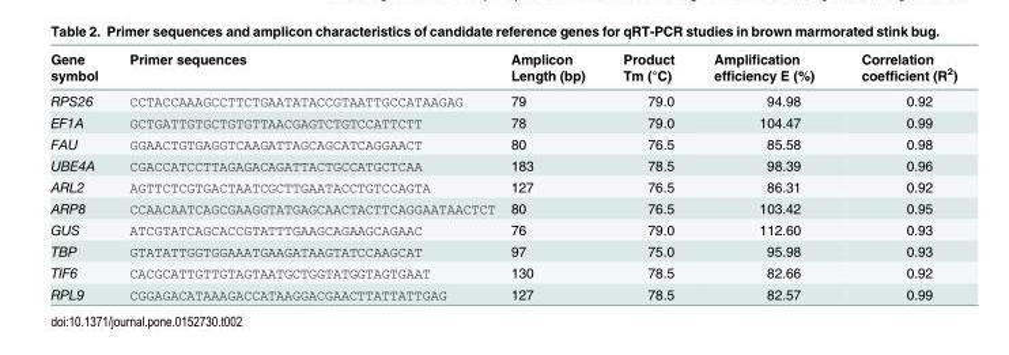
<table><thead><tr><td>Gene symbol</td><td>Primer sequences</td><td>Amplicon Length (bp)</td><td>Product Tm (°C)</td><td>Amplification efficiency E (%)</td><td>Correlation coefficient (R<sup>2</sup>)</td></tr></thead><tbody><tr><td>RPS26</td><td>CCTACCAAAGCCTTCTGAATATACCGTAATTGCCATAAGAG</td><td>79</td><td>79.0</td><td>94.98</td><td>0.92</td></tr><tr><td>EF1A</td><td>GCTGATTGTGCTGTGTTAACGAGTCTGTCCATTCTT</td><td>78</td><td>79.0</td><td>104.47</td><td>0.99</td></tr><tr><td>FAU</td><td>GGAACTGTGAGGTCAAGATTAGCAGCATCAGGAACT</td><td>80</td><td>76.5</td><td>85.58</td><td>0.98</td></tr><tr><td>UBE4A</td><td>CGACCATCCTTAGAGACAGATTACTGCCATGCTCAA</td><td>183</td><td>78.5</td><td>98.39</td><td>0.96</td></tr><tr><td>ARL2</td><td>AGTTCTCGTGACTAATCGCTTGAATACCTGTCCAGTA</td><td>127</td><td>76.5</td><td>86.31</td><td>0.92</td></tr><tr><td>ARP8</td><td>CCAACAATCAGCGAAGGTATGAGCAACTACTTCAGGAATAACTCT</td><td>80</td><td>76.5</td><td>103.42</td><td>0.95</td></tr><tr><td>GUS</td><td>ATCGTATCAGCACCGTATTTGAAGCAGAAGCAGAAC</td><td>76</td><td>79.0</td><td>112.60</td><td>0.93</td></tr><tr><td>TBP</td><td>GTATATTGGTGGAAATGAAGATAAGTATCCAAGCAT</td><td>97</td><td>75.0</td><td>95.98</td><td>0.93</td></tr><tr><td>TIF6</td><td>CACGCATTGTTGTAGTAATGCTGGTATGGTAGTGAAT</td><td>130</td><td>78.5</td><td>82.66</td><td>0.92</td></tr><tr><td>RPL9</td><td>CGGAGACATAAAGACCATAAGGACGAACTTATTATTGAG</td><td>127</td><td>78.5</td><td>82.57</td><td>0.99</td></tr></tbody></table>